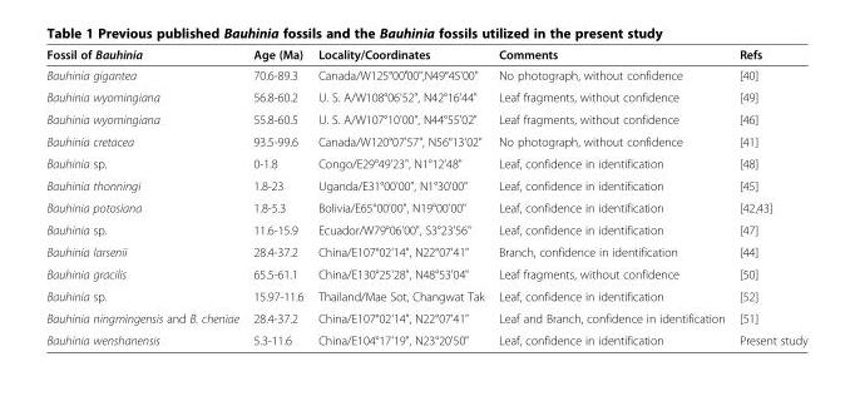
<table><thead><tr><td>Fossil of Bauhinia</td><td>Age (Ma)</td><td>Locality/Coordinates</td><td>Comments</td><td>Refs</td></tr></thead><tbody><tr><td>Bauhinia gigantea</td><td>70.6-89.3</td><td>Canada/W125°00′00&quot;,N49°45&#x27;00&quot;</td><td>No photograph, without confidence</td><td>[40]</td></tr><tr><td>Bauhinia wyomingiana</td><td>56.8-60.2</td><td>U. S. A/W108°06&#x27;52&quot;, N42°16&#x27;44&quot;</td><td>Leaf fragments, without confidence</td><td>[49]</td></tr><tr><td>Bauhinia wyomingiana</td><td>55.8-60.5</td><td>U. S. A/W107°10&#x27;00&quot;, N44°55&#x27;02&quot;</td><td>Leaf fragments, without confidence</td><td>[46]</td></tr><tr><td>Bauhinia cretacea</td><td>93.5-99.6</td><td>Canada/W120°07&#x27;57&quot;, N56°13&#x27;02&quot;</td><td>No photograph, without confidence</td><td>[41]</td></tr><tr><td>Bauhinia sp.</td><td>0-1.8</td><td>Congo/E29°49&#x27;23&quot;, N1°12&#x27;48&quot;</td><td>Leaf, confidence in identification</td><td>[48]</td></tr><tr><td>Bauhinia thonningi</td><td>1.8-23</td><td>Uganda/E31°00&#x27;00&quot;, N1°30&#x27;00&quot;</td><td>Leaf, confidence in identification</td><td>[45]</td></tr><tr><td>Bauhinia potosiana</td><td>1.8-5.3</td><td>Bolivia/E65°00&#x27;00&quot;, N19°00&#x27;00&quot;</td><td>Leaf, confidence in identification</td><td>[42,43]</td></tr><tr><td>Bauhinia sp.</td><td>11.6-15.9</td><td>Ecuador/W79°06&#x27;00&quot;, S3°23&#x27;56&quot;</td><td>Leaf, confidence in identification</td><td>[47]</td></tr><tr><td>Bauhinia larsenii</td><td>28.4-37.2</td><td>China/E107°02&#x27;14&quot;, N22°07&#x27;41&quot;</td><td>Branch, confidence in identification</td><td>[44]</td></tr><tr><td>Bauhinia gracilis</td><td>65.5-61.1</td><td>China/E130°25&#x27;28&quot;, N48°53&#x27;04&quot;</td><td>Leaf fragments, without confidence</td><td>[50]</td></tr><tr><td>Bauhinia sp.</td><td>15.97-11.6</td><td>Thailand/Mae Sot, Changwat Tak</td><td>Leaf, confidence in identification</td><td>[52]</td></tr><tr><td>Bauhinia ningmingensis and B. cheniae</td><td>28.4-37.2</td><td>China/E107°02&#x27;14&quot;, N22°07&#x27;41&quot;</td><td>Leaf and Branch, confidence in identification</td><td>[51]</td></tr><tr><td>Bauhinia wenshanensis</td><td>5.3-11.6</td><td>China/E104°17&#x27;19&quot;, N23°20&#x27;50&quot;</td><td>Leaf, confidence in identification</td><td>Present study</td></tr></tbody></table>